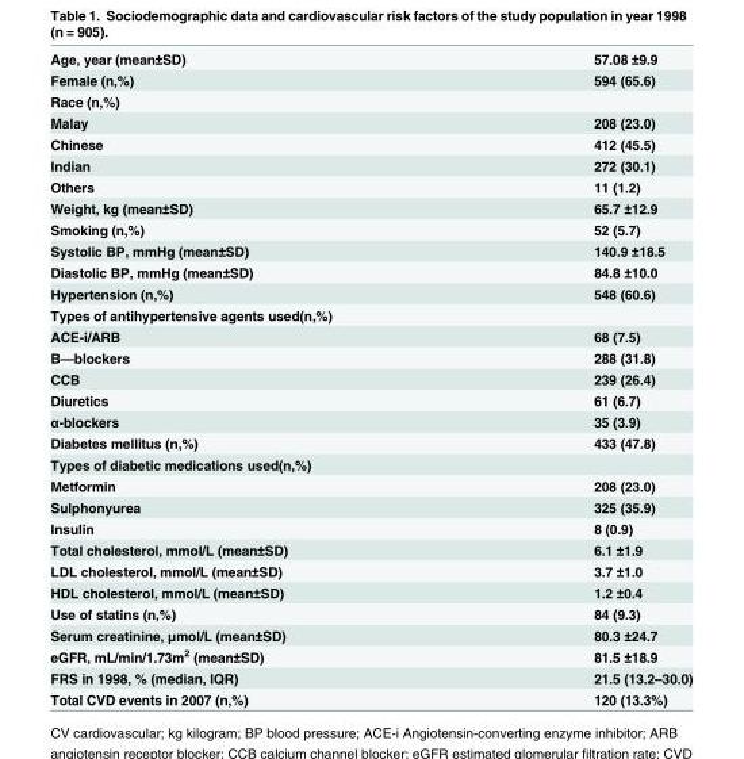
<table><tbody><tr><td>Age, year (mean±SD)</td><td>57.08 ±9.9</td></tr><tr><td>Female (n,%)</td><td>594 (65.6)</td></tr><tr><td colspan="2">Race (n,%)</td></tr><tr><td>Malay</td><td>208 (23.0)</td></tr><tr><td>Chinese</td><td>412 (45.5)</td></tr><tr><td>Indian</td><td>272 (30.1)</td></tr><tr><td>Others</td><td>11 (1.2)</td></tr><tr><td>Weight, kg (mean±SD)</td><td>65.7 ±12.9</td></tr><tr><td>Smoking (n,%)</td><td>52 (5.7)</td></tr><tr><td>Systolic BP, mmHg (mean±SD)</td><td>140.9 ±18.5</td></tr><tr><td>Diastolic BP, mmHg (mean±SD)</td><td>84.8 ±10.0</td></tr><tr><td>Hypertension (n,%)</td><td>548 (60.6)</td></tr><tr><td colspan="2">Types of antihypertensive agents used(n,%)</td></tr><tr><td>ACE-i/ARB</td><td>68 (7.5)</td></tr><tr><td>B—blockers</td><td>288 (31.8)</td></tr><tr><td>CCB</td><td>239 (26.4)</td></tr><tr><td>Diuretics</td><td>61 (6.7)</td></tr><tr><td>α-blockers</td><td>35 (3.9)</td></tr><tr><td>Diabetes mellitus (n,%)</td><td>433 (47.8)</td></tr><tr><td colspan="2">Types of diabetic medications used(n,%)</td></tr><tr><td>Metformin</td><td>208 (23.0)</td></tr><tr><td>Sulphonyurea</td><td>325 (35.9)</td></tr><tr><td>Insulin</td><td>8 (0.9)</td></tr><tr><td>Total cholesterol, mmol/L (mean±SD)</td><td>6.1 ±1.9</td></tr><tr><td>LDL cholesterol, mmol/L (mean±SD)</td><td>3.7 ±1.0</td></tr><tr><td>HDL cholesterol, mmol/L (mean±SD)</td><td>1.2 ±0.4</td></tr><tr><td>Use of statins (n,%)</td><td>84 (9.3)</td></tr><tr><td>Serum creatinine, μmol/L (mean±SD)</td><td>80.3 ±24.7</td></tr><tr><td>eGFR, mL/min/1.73m<sup>2</sup> (mean±SD)</td><td>81.5 ±18.9</td></tr><tr><td>FRS in 1998, % (median, IQR)</td><td>21.5 (13.2–30.0)</td></tr><tr><td>Total CVD events in 2007 (n,%)</td><td>120 (13.3%)</td></tr></tbody></table>